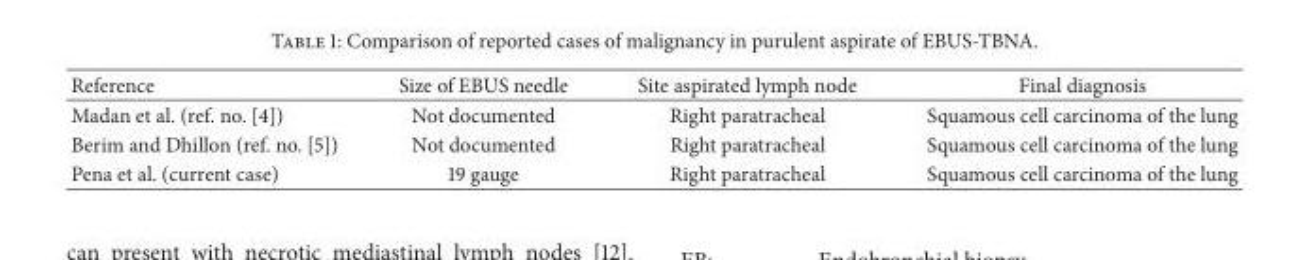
<table><thead><tr><td>Reference</td><td>Size of EBUS needle</td><td>Site aspirated lymph node</td><td>Final diagnosis</td></tr></thead><tbody><tr><td>Madan et al. (ref. no. [4])</td><td>Not documented</td><td>Right paratracheal</td><td>Squamous cell carcinoma of the lung</td></tr><tr><td>Berim and Dhillon (ref. no. [5])</td><td>Not documented</td><td>Right paratracheal</td><td>Squamous cell carcinoma of the lung</td></tr><tr><td>Pena et al. (current case)</td><td>19 gauge</td><td>Right paratracheal</td><td>Squamous cell carcinoma of the lung</td></tr></tbody></table>